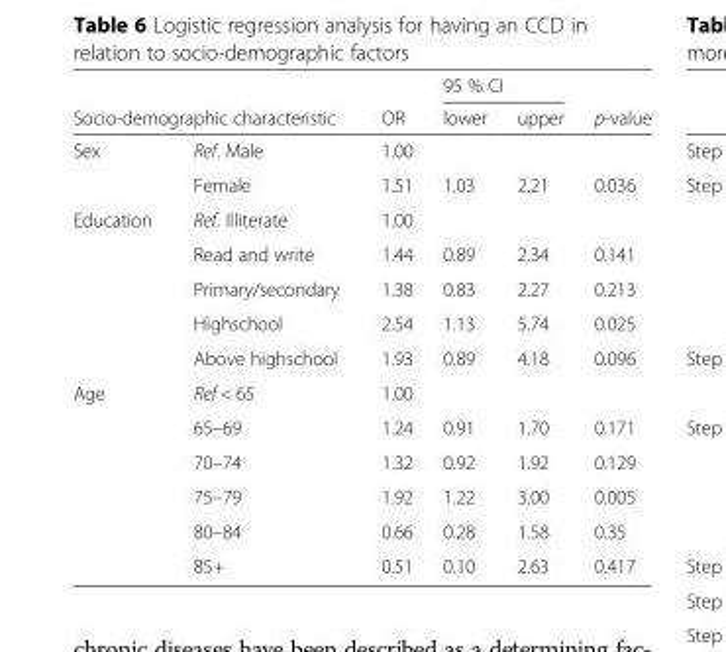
<table><thead><tr><td></td><td></td><td rowspan="2">OR</td><td colspan="2">95 % CI</td><td rowspan="2">p-value</td></tr><tr><td colspan="2">Socio-demographic characteristic</td><td>lower</td><td>upper</td></tr></thead><tbody><tr><td rowspan="2">Sex</td><td>Ref. Male</td><td>1.00</td><td></td><td></td><td></td></tr><tr><td>Female</td><td>1.51</td><td>1.03</td><td>2.21</td><td>0.036</td></tr><tr><td rowspan="5">Education</td><td>Ref. Illiterate</td><td>1.00</td><td></td><td></td><td></td></tr><tr><td>Read and write</td><td>1.44</td><td>0.89</td><td>2.34</td><td>0.141</td></tr><tr><td>Primary/secondary</td><td>1.38</td><td>0.83</td><td>2.27</td><td>0.213</td></tr><tr><td>Highschool</td><td>2.54</td><td>1.13</td><td>5.74</td><td>0.025</td></tr><tr><td>Above highschool</td><td>1.93</td><td>0.89</td><td>4.18</td><td>0.096</td></tr><tr><td rowspan="6">Age</td><td>Ref &lt; 65</td><td>1.00</td><td></td><td></td><td></td></tr><tr><td>65–69</td><td>1.24</td><td>0.91</td><td>1.70</td><td>0.171</td></tr><tr><td>70–74</td><td>1.32</td><td>0.92</td><td>1.92</td><td>0.129</td></tr><tr><td>75–79</td><td>1.92</td><td>1.22</td><td>3.00</td><td>0.005</td></tr><tr><td>80–84</td><td>0.66</td><td>0.28</td><td>1.58</td><td>0.35</td></tr><tr><td>85+</td><td>0.51</td><td>0.10</td><td>2.63</td><td>0.417</td></tr></tbody></table>